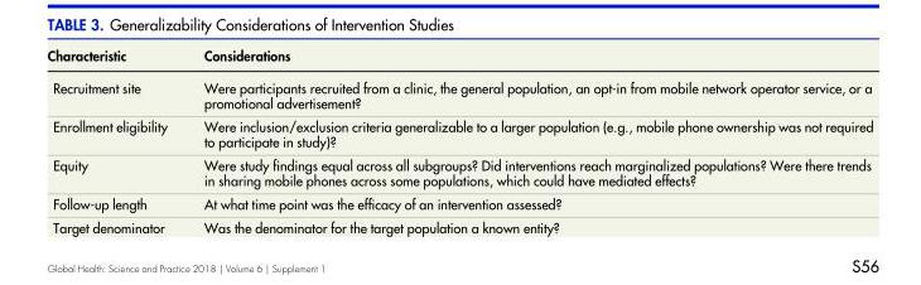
<table><thead><tr><td>Characteristic</td><td>Considerations</td></tr></thead><tbody><tr><td>Recruitment site</td><td>Were participants recruited from a clinic, the general population, an opt-in from mobile network operator service, or a promotional advertisement?</td></tr><tr><td>Enrollment eligibility</td><td>Were inclusion/exclusion criteria generalizable to a larger population (e.g., mobile phone ownership was not required to participate in study)?</td></tr><tr><td>Equity</td><td>Were study findings equal across all subgroups? Did interventions reach marginalized populations? Were there trends in sharing mobile phones across some populations, which could have mediated effects?</td></tr><tr><td>Follow-up length</td><td>At what time point was the efficacy of an intervention assessed?</td></tr><tr><td>Target denominator</td><td>Was the denominator for the target population a known entity?</td></tr></tbody></table>